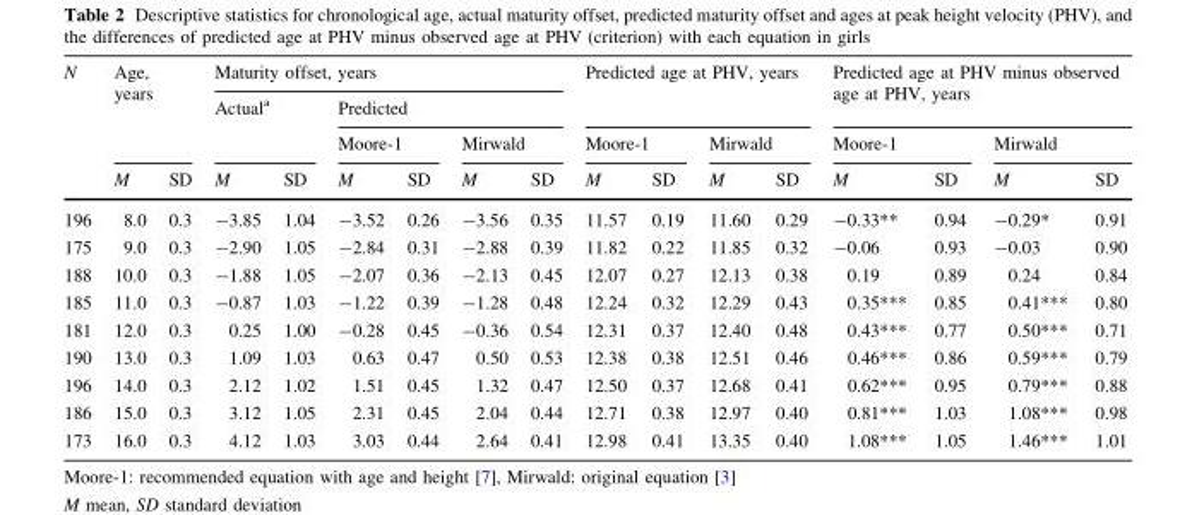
<table><thead><tr><td rowspan="4">N</td><td rowspan="3" colspan="2">Age, years</td><td colspan="6">Maturity offset, years</td><td rowspan="2" colspan="4">Predicted age at PHV, years</td><td rowspan="2" colspan="4">Predicted age at PHV minus observed age at PHV, years</td></tr><tr><td rowspan="2" colspan="2">Actual<sup>a</sup></td><td colspan="4">Predicted</td></tr><tr><td colspan="2">Moore-1</td><td colspan="2">Mirwald</td><td colspan="2">Moore-1</td><td colspan="2">Mirwald</td><td colspan="2">Moore-1</td><td colspan="2">Mirwald</td></tr><tr><td>M</td><td>SD</td><td>M</td><td>SD</td><td>M</td><td>SD</td><td>M</td><td>SD</td><td>M</td><td>SD</td><td>M</td><td>SD</td><td>M</td><td>SD</td><td>M</td><td>SD</td></tr></thead><tbody><tr><td>196</td><td>8.0</td><td>0.3</td><td>-3.85</td><td>1.04</td><td>-3.52</td><td>0.26</td><td>-3.56</td><td>0.35</td><td>11.57</td><td>0.19</td><td>11.60</td><td>0.29</td><td>-0.33**</td><td>0.94</td><td>-0.29*</td><td>0.91</td></tr><tr><td>175</td><td>9.0</td><td>0.3</td><td>-2.90</td><td>1.05</td><td>-2.84</td><td>0.31</td><td>-2.88</td><td>0.39</td><td>11.82</td><td>0.22</td><td>11.85</td><td>0.32</td><td>-0.06</td><td>0.93</td><td>-0.03</td><td>0.90</td></tr><tr><td>188</td><td>10.0</td><td>0.3</td><td>-1.88</td><td>1.05</td><td>-2.07</td><td>0.36</td><td>-2.13</td><td>0.45</td><td>12.07</td><td>0.27</td><td>12.13</td><td>0.38</td><td>0.19</td><td>0.89</td><td>0.24</td><td>0.84</td></tr><tr><td>185</td><td>11.0</td><td>0.3</td><td>-0.87</td><td>1.03</td><td>-1.22</td><td>0.39</td><td>-1.28</td><td>0.48</td><td>12.24</td><td>0.32</td><td>12.29</td><td>0.43</td><td>0.35***</td><td>0.85</td><td>0.41***</td><td>0.80</td></tr><tr><td>181</td><td>12.0</td><td>0.3</td><td>0.25</td><td>1.00</td><td>-0.28</td><td>0.45</td><td>-0.36</td><td>0.54</td><td>12.31</td><td>0.37</td><td>12.40</td><td>0.48</td><td>0.43***</td><td>0.77</td><td>0.50***</td><td>0.71</td></tr><tr><td>190</td><td>13.0</td><td>0.3</td><td>1.09</td><td>1.03</td><td>0.63</td><td>0.47</td><td>0.50</td><td>0.53</td><td>12.38</td><td>0.38</td><td>12.51</td><td>0.46</td><td>0.46***</td><td>0.86</td><td>0.59***</td><td>0.79</td></tr><tr><td>196</td><td>14.0</td><td>0.3</td><td>2.12</td><td>1.02</td><td>1.51</td><td>0.45</td><td>1.32</td><td>0.47</td><td>12.50</td><td>0.37</td><td>12.68</td><td>0.41</td><td>0.62***</td><td>0.95</td><td>0.79***</td><td>0.88</td></tr><tr><td>186</td><td>15.0</td><td>0.3</td><td>3.12</td><td>1.05</td><td>2.31</td><td>0.45</td><td>2.04</td><td>0.44</td><td>12.71</td><td>0.38</td><td>12.97</td><td>0.40</td><td>0.81***</td><td>1.03</td><td>1.08***</td><td>0.98</td></tr><tr><td>173</td><td>16.0</td><td>0.3</td><td>4.12</td><td>1.03</td><td>3.03</td><td>0.44</td><td>2.64</td><td>0.41</td><td>12.98</td><td>0.41</td><td>13.35</td><td>0.40</td><td>1.08***</td><td>1.05</td><td>1.46***</td><td>1.01</td></tr></tbody></table>